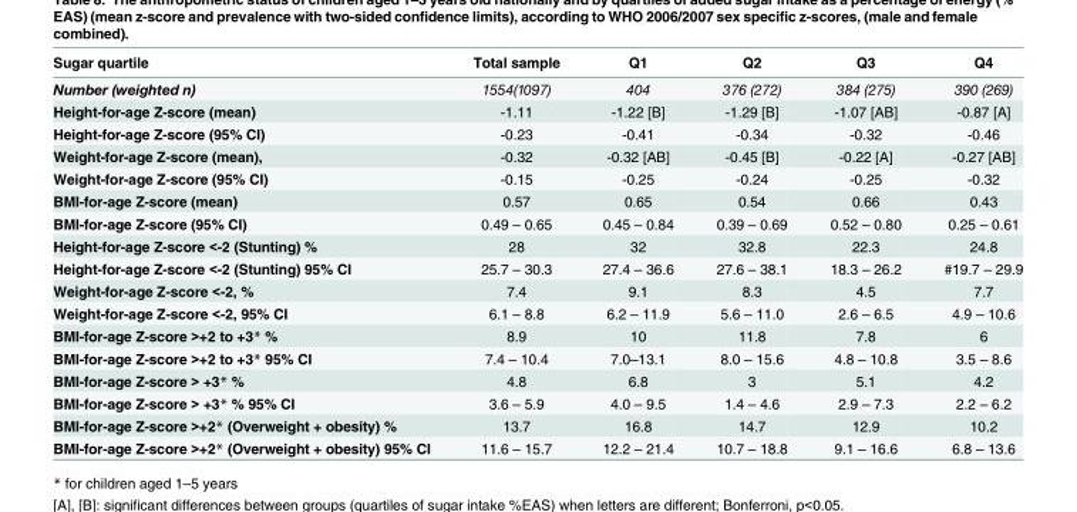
<table><thead><tr><td>Sugar quartile</td><td>Total sample</td><td>Q1</td><td>Q2</td><td>Q3</td><td>Q4</td></tr></thead><tbody><tr><td>Number (weighted n)</td><td>1554(1097)</td><td>404</td><td>376 (272)</td><td>384 (275)</td><td>390 (269)</td></tr><tr><td>Height-for-age Z-score (mean)</td><td>-1.11</td><td>-1.22 [B]</td><td>-1.29 [B]</td><td>-1.07 [AB]</td><td>-0.87 [A]</td></tr><tr><td>Height-for-age Z-score (95% CI)</td><td>-0.23</td><td>-0.41</td><td>-0.34</td><td>-0.32</td><td>-0.46</td></tr><tr><td>Weight-for-age Z-score (mean),</td><td>-0.32</td><td>-0.32 [AB]</td><td>-0.45 [B]</td><td>-0.22 [A]</td><td>-0.27 [AB]</td></tr><tr><td>Weight-for-age Z-score (95% CI)</td><td>-0.15</td><td>-0.25</td><td>-0.24</td><td>-0.25</td><td>-0.32</td></tr><tr><td>BMI-for-age Z-score (mean)</td><td>0.57</td><td>0.65</td><td>0.54</td><td>0.66</td><td>0.43</td></tr><tr><td>BMI-for-age Z-score (95% CI)</td><td>0.49 – 0.65</td><td>0.45 – 0.84</td><td>0.39 – 0.69</td><td>0.52 – 0.80</td><td>0.25 – 0.61</td></tr><tr><td>Height-for-age Z-score &lt;-2 (Stunting) %</td><td>28</td><td>32</td><td>32.8</td><td>22.3</td><td>24.8</td></tr><tr><td>Height-for-age Z-score &lt;-2 (Stunting) 95% CI</td><td>25.7 – 30.3</td><td>27.4 – 36.6</td><td>27.6 – 38.1</td><td>18.3 – 26.2</td><td>#19.7 – 29.9</td></tr><tr><td>Weight-for-age Z-score &lt;-2, %</td><td>7.4</td><td>9.1</td><td>8.3</td><td>4.5</td><td>7.7</td></tr><tr><td>Weight-for-age Z-score &lt;-2, 95% CI</td><td>6.1 – 8.8</td><td>6.2 – 11.9</td><td>5.6 – 11.0</td><td>2.6 – 6.5</td><td>4.9 – 10.6</td></tr><tr><td>BMI-for-age Z-score &gt;+2 to +3* %</td><td>8.9</td><td>10</td><td>11.8</td><td>7.8</td><td>6</td></tr><tr><td>BMI-for-age Z-score &gt;+2 to +3* 95% CI</td><td>7.4 – 10.4</td><td>7.0–13.1</td><td>8.0 – 15.6</td><td>4.8 – 10.8</td><td>3.5 – 8.6</td></tr><tr><td>BMI-for-age Z-score &gt; +3* %</td><td>4.8</td><td>6.8</td><td>3</td><td>5.1</td><td>4.2</td></tr><tr><td>BMI-for-age Z-score &gt; +3* % 95% CI</td><td>3.6 – 5.9</td><td>4.0 – 9.5</td><td>1.4 – 4.6</td><td>2.9 – 7.3</td><td>2.2 – 6.2</td></tr><tr><td>BMI-for-age Z-score &gt;+2* (Overweight + obesity) %</td><td>13.7</td><td>16.8</td><td>14.7</td><td>12.9</td><td>10.2</td></tr><tr><td>BMI-for-age Z-score &gt;+2* (Overweight + obesity) 95% CI</td><td>11.6 – 15.7</td><td>12.2 – 21.4</td><td>10.7 – 18.8</td><td>9.1 – 16.6</td><td>6.8 – 13.6</td></tr></tbody></table>